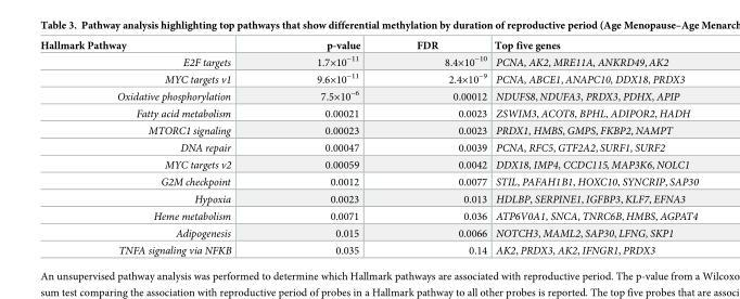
<table><thead><tr><td>Hallmark Pathway</td><td>p-value</td><td>FDR</td><td>Top five genes</td></tr></thead><tbody><tr><td>E2F targets</td><td>1.7×10<sup>−11</sup></td><td>8.4×10<sup>−10</sup></td><td>PCNA, AK2, MRE11A, ANKRD49, AK2</td></tr><tr><td>MYC targets v1</td><td>9.6×10<sup>−11</sup></td><td>2.4×10<sup>−9</sup></td><td>PCNA, ABCE1, ANAPC10, DDX18, PRDX3</td></tr><tr><td>Oxidative phosphorylation</td><td>7.5×10<sup>−6</sup></td><td>0.00012</td><td>NDUFS8, NDUFA3, PRDX3, PDHX, APIP</td></tr><tr><td>Fatty acid metabolism</td><td>0.00021</td><td>0.0023</td><td>ZSWIM3, ACOT8, BPHL, ADIPOR2, HADH</td></tr><tr><td>MTORC1 signaling</td><td>0.00023</td><td>0.0023</td><td>PRDX1, HMBS, GMPS, FKBP2, NAMPT</td></tr><tr><td>DNA repair</td><td>0.00047</td><td>0.0039</td><td>PCNA, RFC5, GTF2A2, SURF1, SURF2</td></tr><tr><td>MYC targets v2</td><td>0.00059</td><td>0.0042</td><td>DDX18, IMP4, CCDC115, MAP3K6, NOLC1</td></tr><tr><td>G2M checkpoint</td><td>0.0012</td><td>0.0077</td><td>STIL, PAFAH1B1, HOXC10, SYNCRIP, SAP30</td></tr><tr><td>Hypoxia</td><td>0.0023</td><td>0.013</td><td>HDLBP, SERPINE1, IGFBP3, KLF7, EFNA3</td></tr><tr><td>Heme metabolism</td><td>0.0071</td><td>0.036</td><td>ATP6V0A1, SNCA, TNRC6B, HMBS, AGPAT4</td></tr><tr><td>Adipogenesis</td><td>0.015</td><td>0.0066</td><td>NOTCH3, MAML2, SAP30, LFNG, SKP1</td></tr><tr><td>TNFA signaling via NFKB</td><td>0.035</td><td>0.14</td><td>AK2, PRDX3, AK2, IFNGR1, PRDX3</td></tr></tbody></table>